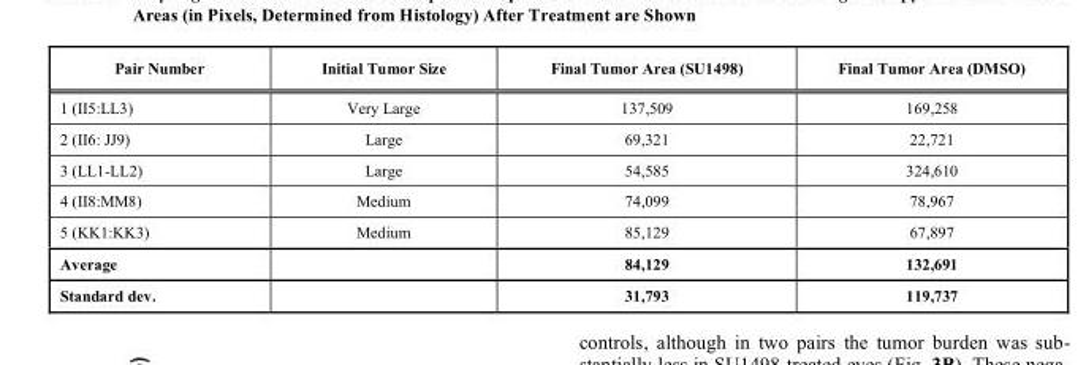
<table><thead><tr><td>Pair Number</td><td>Initial Tumor Size</td><td>Final Tumor Area (SU1498)</td><td>Final Tumor Area (DMSO)</td></tr></thead><tbody><tr><td>1 (II5:LL3)</td><td>Very Large</td><td>137,509</td><td>169,258</td></tr><tr><td>2 (II6: JJ9)</td><td>Large</td><td>69,321</td><td>22,721</td></tr><tr><td>3 (LL1-LL2)</td><td>Large</td><td>54,585</td><td>324,610</td></tr><tr><td>4 (II8:MM8)</td><td>Medium</td><td>74,099</td><td>78,967</td></tr><tr><td>5 (KK1:KK3)</td><td>Medium</td><td>85,129</td><td>67,897</td></tr><tr><td>Average</td><td></td><td>84,129</td><td>132,691</td></tr><tr><td>Standard dev.</td><td></td><td>31,793</td><td>119,737</td></tr></tbody></table>